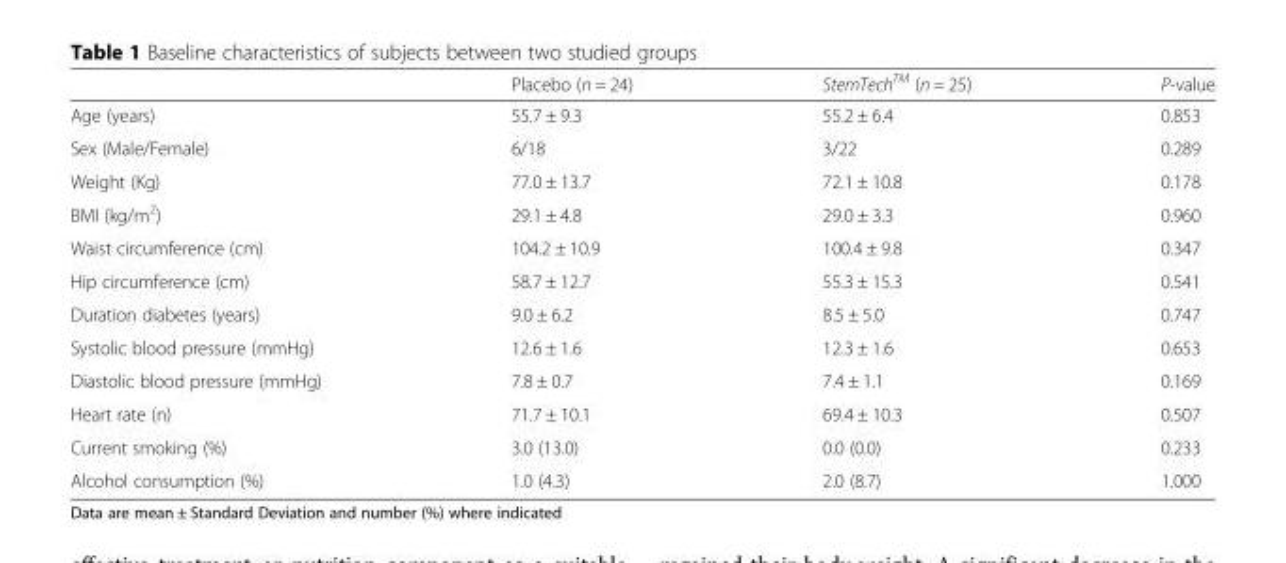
<table><thead><tr><td></td><td>Placebo (n = 24)</td><td>StemTech<sup>TM</sup> (n = 25)</td><td>P-value</td></tr></thead><tbody><tr><td>Age (years)</td><td>55.7 ± 9.3</td><td>55.2 ± 6.4</td><td>0.853</td></tr><tr><td>Sex (Male/Female)</td><td>6/18</td><td>3/22</td><td>0.289</td></tr><tr><td>Weight (Kg)</td><td>77.0 ± 13.7</td><td>72.1 ± 10.8</td><td>0.178</td></tr><tr><td>BMI (kg/m<sup>2</sup>)</td><td>29.1 ± 4.8</td><td>29.0 ± 3.3</td><td>0.960</td></tr><tr><td>Waist circumference (cm)</td><td>104.2 ± 10.9</td><td>100.4 ± 9.8</td><td>0.347</td></tr><tr><td>Hip circumference (cm)</td><td>58.7 ± 12.7</td><td>55.3 ± 15.3</td><td>0.541</td></tr><tr><td>Duration diabetes (years)</td><td>9.0 ± 6.2</td><td>8.5 ± 5.0</td><td>0.747</td></tr><tr><td>Systolic blood pressure (mmHg)</td><td>12.6 ± 1.6</td><td>12.3 ± 1.6</td><td>0.653</td></tr><tr><td>Diastolic blood pressure (mmHg)</td><td>7.8 ± 0.7</td><td>7.4 ± 1.1</td><td>0.169</td></tr><tr><td>Heart rate (n)</td><td>71.7 ± 10.1</td><td>69.4 ± 10.3</td><td>0.507</td></tr><tr><td>Current smoking (%)</td><td>3.0 (13.0)</td><td>0.0 (0.0)</td><td>0.233</td></tr><tr><td>Alcohol consumption (%)</td><td>1.0 (4.3)</td><td>2.0 (8.7)</td><td>1.000</td></tr></tbody></table>